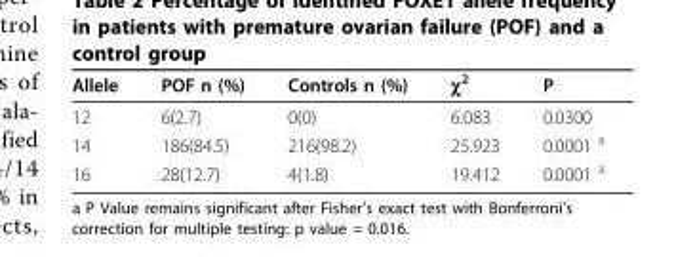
<table><thead><tr><td>Allele</td><td>POF n (%)</td><td>Controls n (%)</td><td>χ<sup>2</sup></td><td>P</td></tr></thead><tbody><tr><td>12</td><td>6(2.7)</td><td>0(0)</td><td>6.083</td><td>0.0300</td></tr><tr><td>14</td><td>186(84.5)</td><td>216(98.2)</td><td>25.923</td><td>0.0001 <sup>a</sup></td></tr><tr><td>16</td><td>28(12.7)</td><td>4(1.8)</td><td>19.412</td><td>0.0001 <sup>a</sup></td></tr></tbody></table>